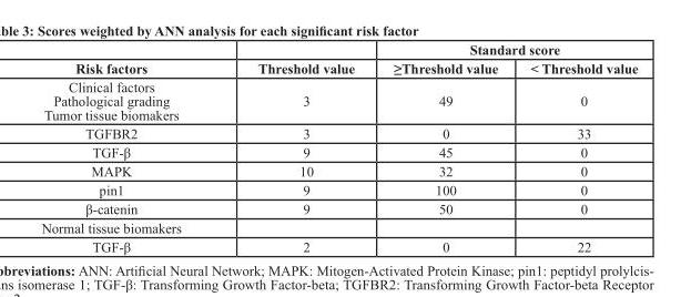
<table><thead><tr><td rowspan="2">Risk factors</td><td rowspan="2">Threshold value</td><td colspan="2">Standard score</td></tr><tr><td>≥Threshold value</td><td>&lt; Threshold value</td></tr></thead><tbody><tr><td>Clinical factors Pathological grading Tumor tissue biomakers</td><td>3</td><td>49</td><td>0</td></tr><tr><td>TGFBR2</td><td>3</td><td>0</td><td>33</td></tr><tr><td>TGF-β</td><td>9</td><td>45</td><td>0</td></tr><tr><td>MAPK</td><td>10</td><td>32</td><td>0</td></tr><tr><td>pin1</td><td>9</td><td>100</td><td>0</td></tr><tr><td>β-catenin</td><td>9</td><td>50</td><td>0</td></tr><tr><td colspan="4">Normal tissue biomakers</td></tr><tr><td>TGF-β</td><td>2</td><td>0</td><td>22</td></tr></tbody></table>